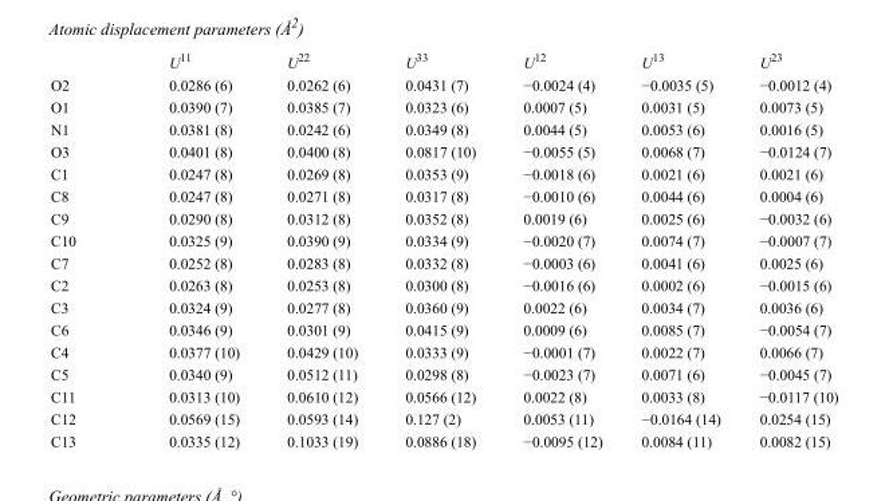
<table><thead><tr><td></td><td>U<sup>11</sup></td><td>U<sup>22</sup></td><td>U<sup>33</sup></td><td>U<sup>12</sup></td><td>U<sup>13</sup></td><td>U<sup>23</sup></td></tr></thead><tbody><tr><td>O2</td><td>0.0286 (6)</td><td>0.0262 (6)</td><td>0.0431 (7)</td><td>−0.0024 (4)</td><td>−0.0035 (5)</td><td>−0.0012 (4)</td></tr><tr><td>O1</td><td>0.0390 (7)</td><td>0.0385 (7)</td><td>0.0323 (6)</td><td>0.0007 (5)</td><td>0.0031 (5)</td><td>0.0073 (5)</td></tr><tr><td>N1</td><td>0.0381 (8)</td><td>0.0242 (6)</td><td>0.0349 (8)</td><td>0.0044 (5)</td><td>0.0053 (6)</td><td>0.0016 (5)</td></tr><tr><td>O3</td><td>0.0401 (8)</td><td>0.0400 (8)</td><td>0.0817 (10)</td><td>−0.0055 (5)</td><td>0.0068 (7)</td><td>−0.0124 (7)</td></tr><tr><td>C1</td><td>0.0247 (8)</td><td>0.0269 (8)</td><td>0.0353 (9)</td><td>−0.0018 (6)</td><td>0.0021 (6)</td><td>0.0021 (6)</td></tr><tr><td>C8</td><td>0.0247 (8)</td><td>0.0271 (8)</td><td>0.0317 (8)</td><td>−0.0010 (6)</td><td>0.0044 (6)</td><td>0.0004 (6)</td></tr><tr><td>C9</td><td>0.0290 (8)</td><td>0.0312 (8)</td><td>0.0352 (8)</td><td>0.0019 (6)</td><td>0.0025 (6)</td><td>−0.0032 (6)</td></tr><tr><td>C10</td><td>0.0325 (9)</td><td>0.0390 (9)</td><td>0.0334 (9)</td><td>−0.0020 (7)</td><td>0.0074 (7)</td><td>−0.0007 (7)</td></tr><tr><td>C7</td><td>0.0252 (8)</td><td>0.0283 (8)</td><td>0.0332 (8)</td><td>−0.0003 (6)</td><td>0.0041 (6)</td><td>0.0025 (6)</td></tr><tr><td>C2</td><td>0.0263 (8)</td><td>0.0253 (8)</td><td>0.0300 (8)</td><td>−0.0016 (6)</td><td>0.0002 (6)</td><td>−0.0015 (6)</td></tr><tr><td>C3</td><td>0.0324 (9)</td><td>0.0277 (8)</td><td>0.0360 (9)</td><td>0.0022 (6)</td><td>0.0034 (7)</td><td>0.0036 (6)</td></tr><tr><td>C6</td><td>0.0346 (9)</td><td>0.0301 (9)</td><td>0.0415 (9)</td><td>0.0009 (6)</td><td>0.0085 (7)</td><td>−0.0054 (7)</td></tr><tr><td>C4</td><td>0.0377 (10)</td><td>0.0429 (10)</td><td>0.0333 (9)</td><td>−0.0001 (7)</td><td>0.0022 (7)</td><td>0.0066 (7)</td></tr><tr><td>C5</td><td>0.0340 (9)</td><td>0.0512 (11)</td><td>0.0298 (8)</td><td>−0.0023 (7)</td><td>0.0071 (6)</td><td>−0.0045 (7)</td></tr><tr><td>C11</td><td>0.0313 (10)</td><td>0.0610 (12)</td><td>0.0566 (12)</td><td>0.0022 (8)</td><td>0.0033 (8)</td><td>−0.0117 (10)</td></tr><tr><td>C12</td><td>0.0569 (15)</td><td>0.0593 (14)</td><td>0.127 (2)</td><td>0.0053 (11)</td><td>−0.0164 (14)</td><td>0.0254 (15)</td></tr><tr><td>C13</td><td>0.0335 (12)</td><td>0.1033 (19)</td><td>0.0886 (18)</td><td>−0.0095 (12)</td><td>0.0084 (11)</td><td>0.0082 (15)</td></tr></tbody></table>